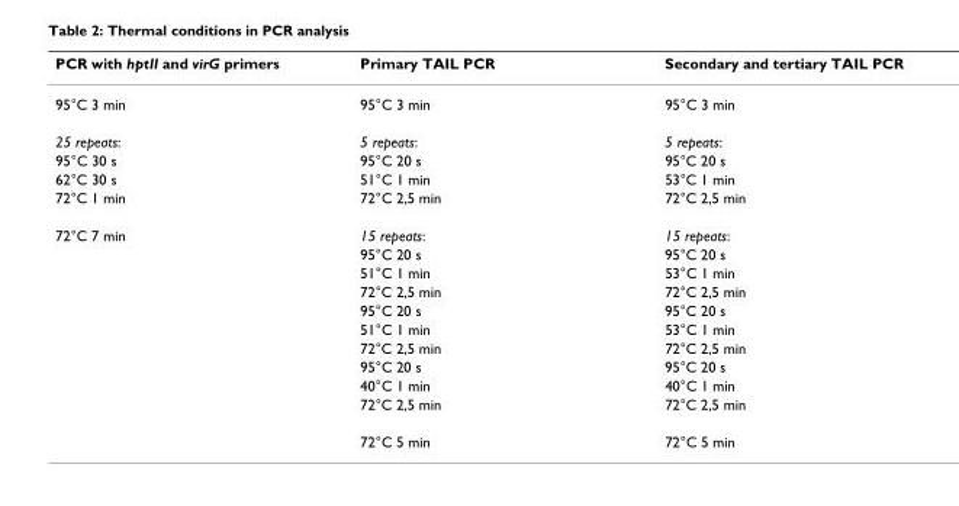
<table><thead><tr><td>PCR with hptII and virG primers</td><td>Primary TAIL PCR</td><td>Secondary and tertiary TAIL PCR</td></tr></thead><tbody><tr><td>95°C 3 min</td><td>95°C 3 min</td><td>95°C 3 min</td></tr><tr><td>25 repeats:</td><td>5 repeats:</td><td>5 repeats:</td></tr><tr><td>95°C 30 s</td><td>95°C 20 s</td><td>95°C 20 s</td></tr><tr><td>62°C 30 s</td><td>51°C 1 min</td><td>53°C 1 min</td></tr><tr><td>72°C 1 min</td><td>72°C 2,5 min</td><td>72°C 2,5 min</td></tr><tr><td rowspan="11">72°C 7 min</td><td>15 repeats:</td><td>15 repeats:</td></tr><tr><td>95°C 20 s</td><td>95°C 20 s</td></tr><tr><td>51°C 1 min</td><td>53°C 1 min</td></tr><tr><td>72°C 2,5 min</td><td>72°C 2,5 min</td></tr><tr><td>95°C 20 s</td><td>95°C 20 s</td></tr><tr><td>51°C 1 min</td><td>53°C 1 min</td></tr><tr><td>72°C 2,5 min</td><td>72°C 2,5 min</td></tr><tr><td>95°C 20 s</td><td>95°C 20 s</td></tr><tr><td>40°C 1 min</td><td>40°C 1 min</td></tr><tr><td>72°C 2,5 min</td><td>72°C 2,5 min</td></tr><tr><td>72°C 5 min</td><td>72°C 5 min</td></tr></tbody></table>